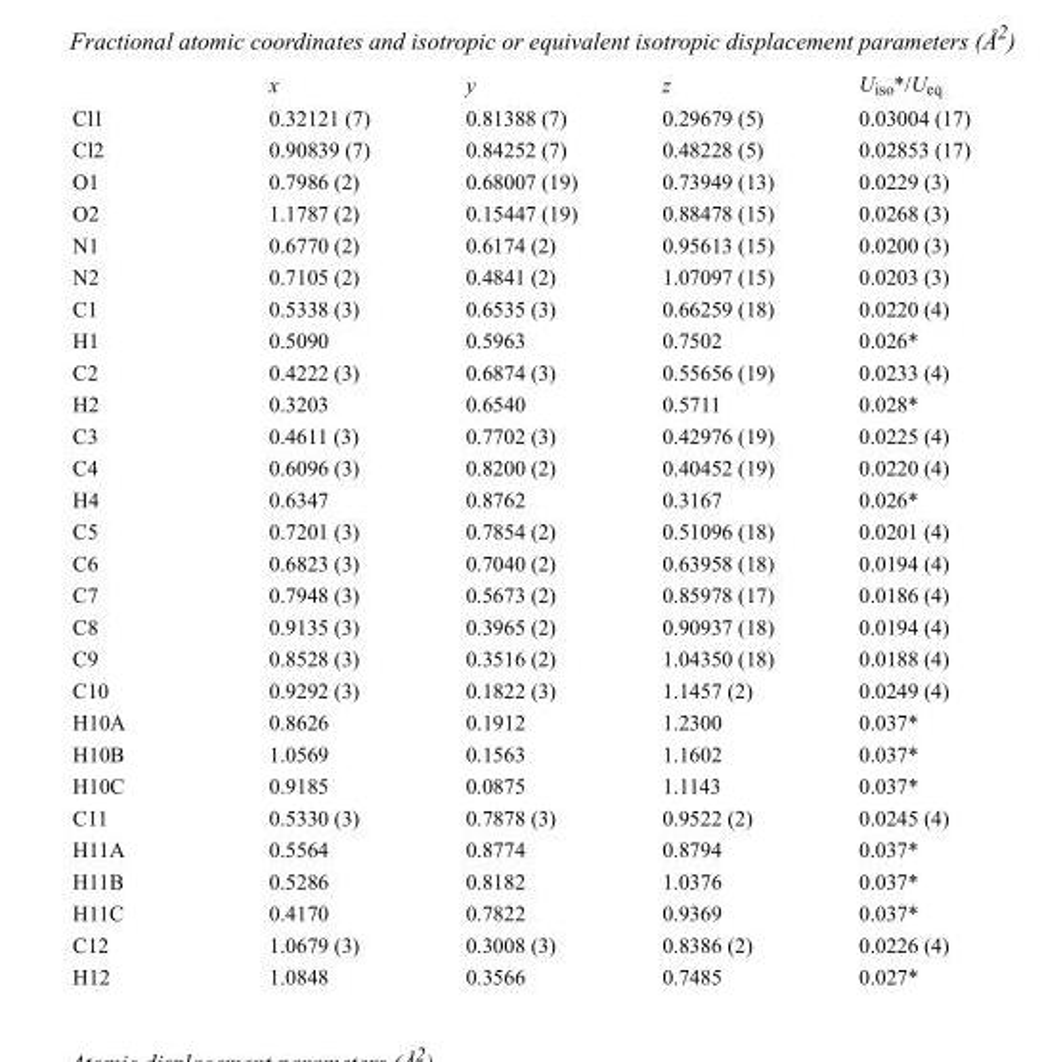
<table><thead><tr><td></td><td>x</td><td>y</td><td>z</td><td>U<sub>iso</sub>*/U<sub>eq</sub></td></tr></thead><tbody><tr><td>Cl1</td><td>0.32121 (7)</td><td>0.81388 (7)</td><td>0.29679 (5)</td><td>0.03004 (17)</td></tr><tr><td>Cl2</td><td>0.90839 (7)</td><td>0.84252 (7)</td><td>0.48228 (5)</td><td>0.02853 (17)</td></tr><tr><td>O1</td><td>0.7986 (2)</td><td>0.68007 (19)</td><td>0.73949 (13)</td><td>0.0229 (3)</td></tr><tr><td>O2</td><td>1.1787 (2)</td><td>0.15447 (19)</td><td>0.88478 (15)</td><td>0.0268 (3)</td></tr><tr><td>N1</td><td>0.6770 (2)</td><td>0.6174 (2)</td><td>0.95613 (15)</td><td>0.0200 (3)</td></tr><tr><td>N2</td><td>0.7105 (2)</td><td>0.4841 (2)</td><td>1.07097 (15)</td><td>0.0203 (3)</td></tr><tr><td>C1</td><td>0.5338 (3)</td><td>0.6535 (3)</td><td>0.66259 (18)</td><td>0.0220 (4)</td></tr><tr><td>H1</td><td>0.5090</td><td>0.5963</td><td>0.7502</td><td>0.026*</td></tr><tr><td>C2</td><td>0.4222 (3)</td><td>0.6874 (3)</td><td>0.55656 (19)</td><td>0.0233 (4)</td></tr><tr><td>H2</td><td>0.3203</td><td>0.6540</td><td>0.5711</td><td>0.028*</td></tr><tr><td>C3</td><td>0.4611 (3)</td><td>0.7702 (3)</td><td>0.42976 (19)</td><td>0.0225 (4)</td></tr><tr><td>C4</td><td>0.6096 (3)</td><td>0.8200 (2)</td><td>0.40452 (19)</td><td>0.0220 (4)</td></tr><tr><td>H4</td><td>0.6347</td><td>0.8762</td><td>0.3167</td><td>0.026*</td></tr><tr><td>C5</td><td>0.7201 (3)</td><td>0.7854 (2)</td><td>0.51096 (18)</td><td>0.0201 (4)</td></tr><tr><td>C6</td><td>0.6823 (3)</td><td>0.7040 (2)</td><td>0.63958 (18)</td><td>0.0194 (4)</td></tr><tr><td>C7</td><td>0.7948 (3)</td><td>0.5673 (2)</td><td>0.85978 (17)</td><td>0.0186 (4)</td></tr><tr><td>C8</td><td>0.9135 (3)</td><td>0.3965 (2)</td><td>0.90937 (18)</td><td>0.0194 (4)</td></tr><tr><td>C9</td><td>0.8528 (3)</td><td>0.3516 (2)</td><td>1.04350 (18)</td><td>0.0188 (4)</td></tr><tr><td>C10</td><td>0.9292 (3)</td><td>0.1822 (3)</td><td>1.1457 (2)</td><td>0.0249 (4)</td></tr><tr><td>H10A</td><td>0.8626</td><td>0.1912</td><td>1.2300</td><td>0.037*</td></tr><tr><td>H10B</td><td>1.0569</td><td>0.1563</td><td>1.1602</td><td>0.037*</td></tr><tr><td>H10C</td><td>0.9185</td><td>0.0875</td><td>1.1143</td><td>0.037*</td></tr><tr><td>C11</td><td>0.5330 (3)</td><td>0.7878 (3)</td><td>0.9522 (2)</td><td>0.0245 (4)</td></tr><tr><td>H11A</td><td>0.5564</td><td>0.8774</td><td>0.8794</td><td>0.037*</td></tr><tr><td>H11B</td><td>0.5286</td><td>0.8182</td><td>1.0376</td><td>0.037*</td></tr><tr><td>H11C</td><td>0.4170</td><td>0.7822</td><td>0.9369</td><td>0.037*</td></tr><tr><td>C12</td><td>1.0679 (3)</td><td>0.3008 (3)</td><td>0.8386 (2)</td><td>0.0226 (4)</td></tr><tr><td>H12</td><td>1.0848</td><td>0.3566</td><td>0.7485</td><td>0.027*</td></tr></tbody></table>